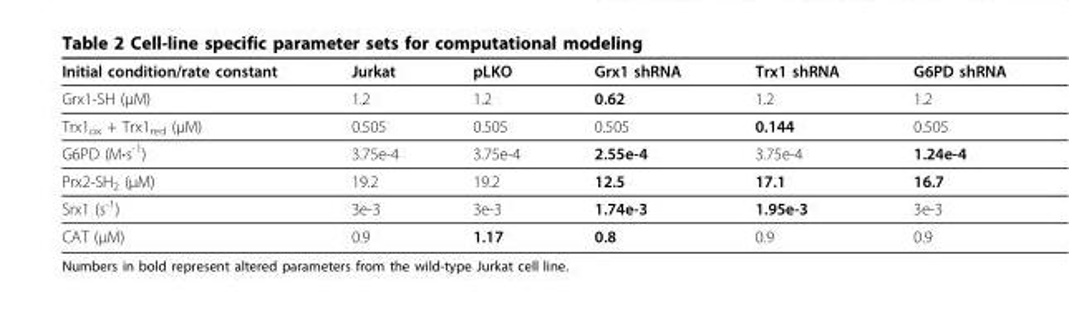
<table><thead><tr><td>Initial condition/rate constant</td><td>Jurkat</td><td>pLKO</td><td>Grx1 shRNA</td><td>Trx1 shRNA</td><td>G6PD shRNA</td></tr></thead><tbody><tr><td>Grx1-SH (μM)</td><td>1.2</td><td>1.2</td><td>0.62</td><td>1.2</td><td>1.2</td></tr><tr><td>Trx1<sub>ox</sub> + Trx1<sub>red</sub> (μM)</td><td>0.505</td><td>0.505</td><td>0.505</td><td>0.144</td><td>0.505</td></tr><tr><td>G6PD (M⋅s<sup>-1</sup>)</td><td>3.75e-4</td><td>3.75e-4</td><td>2.55e-4</td><td>3.75e-4</td><td>1.24e-4</td></tr><tr><td>Prx2-SH<sub>2</sub> (μM)</td><td>19.2</td><td>19.2</td><td>12.5</td><td>17.1</td><td>16.7</td></tr><tr><td>Srx1 (s<sup>-1</sup>)</td><td>3e-3</td><td>3e-3</td><td>1.74e-3</td><td>1.95e-3</td><td>3e-3</td></tr><tr><td>CAT (μM)</td><td>0.9</td><td>1.17</td><td>0.8</td><td>0.9</td><td>0.9</td></tr></tbody></table>